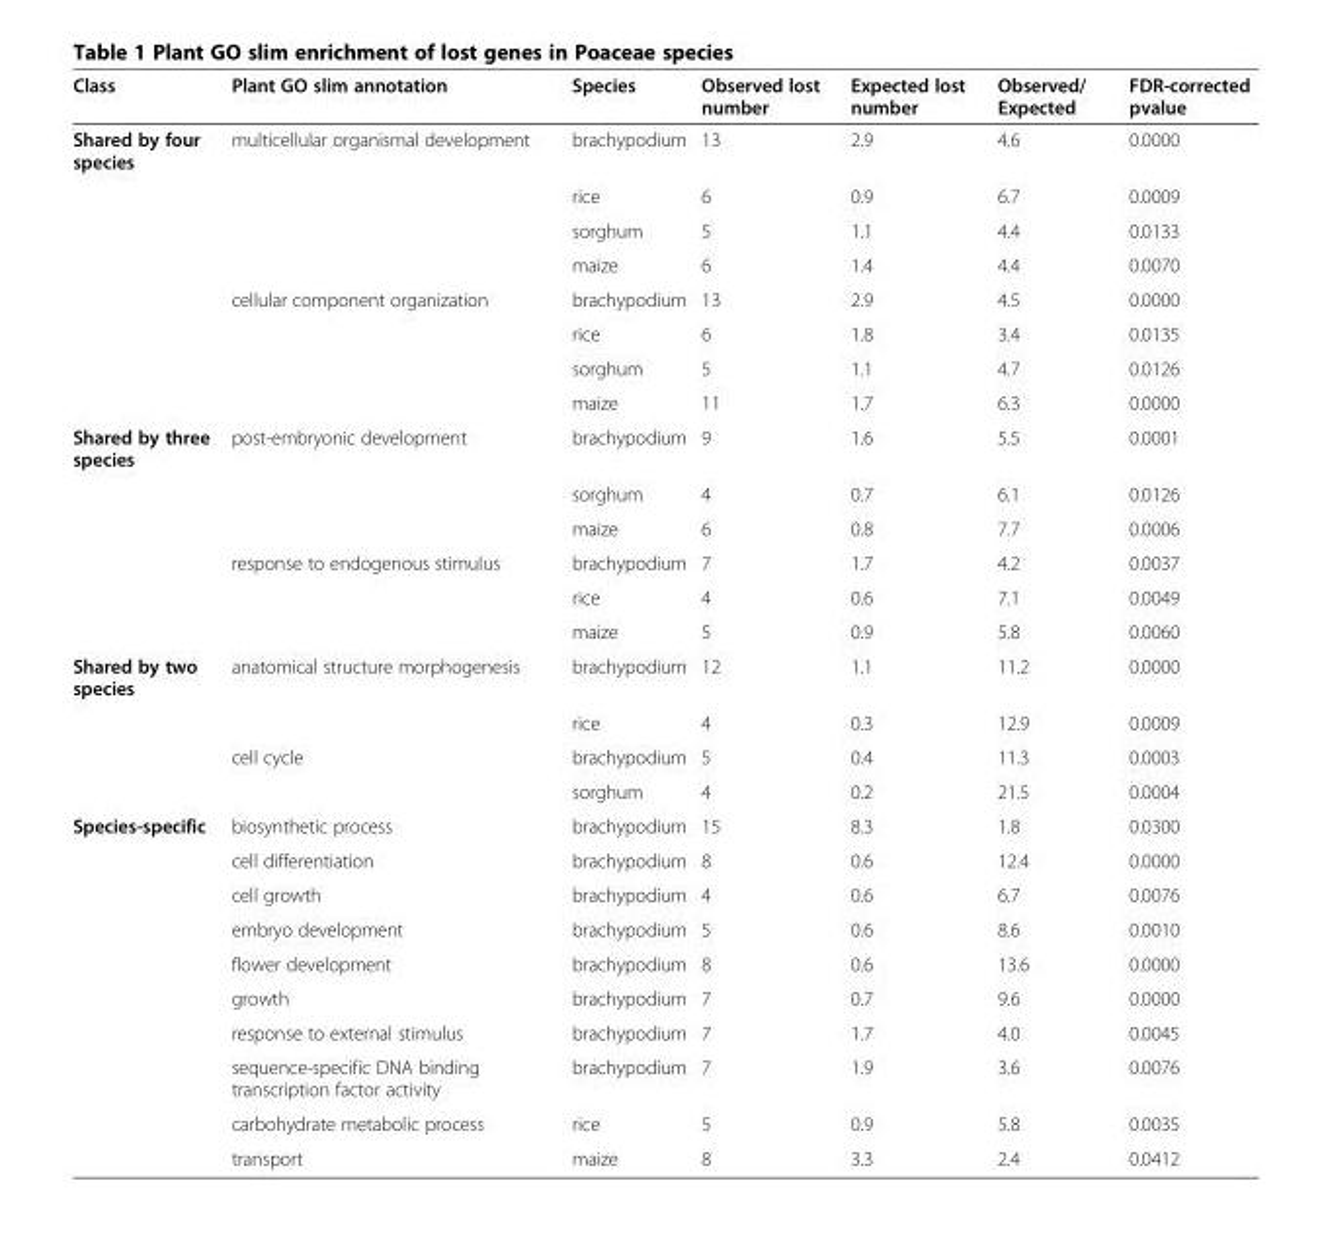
<table><thead><tr><td>Class</td><td>Plant GO slim annotation</td><td>Species</td><td>Observed lost number</td><td>Expected lost number</td><td>Observed/ Expected</td><td>FDR-corrected pvalue</td></tr></thead><tbody><tr><td rowspan="8">Shared by four species</td><td>multicellular organismal development</td><td>brachypodium</td><td>13</td><td>2.9</td><td>4.6</td><td>0.0000</td></tr><tr><td></td><td>rice</td><td>6</td><td>0.9</td><td>6.7</td><td>0.0009</td></tr><tr><td></td><td>sorghum</td><td>5</td><td>1.1</td><td>4.4</td><td>0.0133</td></tr><tr><td></td><td>maize</td><td>6</td><td>1.4</td><td>4.4</td><td>0.0070</td></tr><tr><td>cellular component organization</td><td>brachypodium</td><td>13</td><td>2.9</td><td>4.5</td><td>0.0000</td></tr><tr><td></td><td>rice</td><td>6</td><td>1.8</td><td>3.4</td><td>0.0135</td></tr><tr><td></td><td>sorghum</td><td>5</td><td>1.1</td><td>4.7</td><td>0.0126</td></tr><tr><td></td><td>maize</td><td>11</td><td>1.7</td><td>6.3</td><td>0.0000</td></tr><tr><td rowspan="6">Shared by three species</td><td>post-embryonic development</td><td>brachypodium</td><td>9</td><td>1.6</td><td>5.5</td><td>0.0001</td></tr><tr><td></td><td>sorghum</td><td>4</td><td>0.7</td><td>6.1</td><td>0.0126</td></tr><tr><td></td><td>maize</td><td>6</td><td>0.8</td><td>7.7</td><td>0.0006</td></tr><tr><td>response to endogenous stimulus</td><td>brachypodium</td><td>7</td><td>1.7</td><td>4.2</td><td>0.0037</td></tr><tr><td></td><td>rice</td><td>4</td><td>0.6</td><td>7.1</td><td>0.0049</td></tr><tr><td></td><td>maize</td><td>5</td><td>0.9</td><td>5.8</td><td>0.0060</td></tr><tr><td rowspan="4">Shared by two species</td><td>anatomical structure morphogenesis</td><td>brachypodium</td><td>12</td><td>1.1</td><td>11.2</td><td>0.0000</td></tr><tr><td></td><td>rice</td><td>4</td><td>0.3</td><td>12.9</td><td>0.0009</td></tr><tr><td>cell cycle</td><td>brachypodium</td><td>5</td><td>0.4</td><td>11.3</td><td>0.0003</td></tr><tr><td></td><td>sorghum</td><td>4</td><td>0.2</td><td>21.5</td><td>0.0004</td></tr><tr><td rowspan="10">Species-specific</td><td>biosynthetic process</td><td>brachypodium</td><td>15</td><td>8.3</td><td>1.8</td><td>0.0300</td></tr><tr><td>cell differentiation</td><td>brachypodium</td><td>8</td><td>0.6</td><td>12.4</td><td>0.0000</td></tr><tr><td>cell growth</td><td>brachypodium</td><td>4</td><td>0.6</td><td>6.7</td><td>0.0076</td></tr><tr><td>embryo development</td><td>brachypodium</td><td>5</td><td>0.6</td><td>8.6</td><td>0.0010</td></tr><tr><td>flower development</td><td>brachypodium</td><td>8</td><td>0.6</td><td>13.6</td><td>0.0000</td></tr><tr><td>growth</td><td>brachypodium</td><td>7</td><td>0.7</td><td>9.6</td><td>0.0000</td></tr><tr><td>response to external stimulus</td><td>brachypodium</td><td>7</td><td>1.7</td><td>4.0</td><td>0.0045</td></tr><tr><td>sequence-specific DNA binding transcription factor activity</td><td>brachypodium</td><td>7</td><td>1.9</td><td>3.6</td><td>0.0076</td></tr><tr><td>carbohydrate metabolic process</td><td>rice</td><td>5</td><td>0.9</td><td>5.8</td><td>0.0035</td></tr><tr><td>transport</td><td>maize</td><td>8</td><td>3.3</td><td>2.4</td><td>0.0412</td></tr></tbody></table>